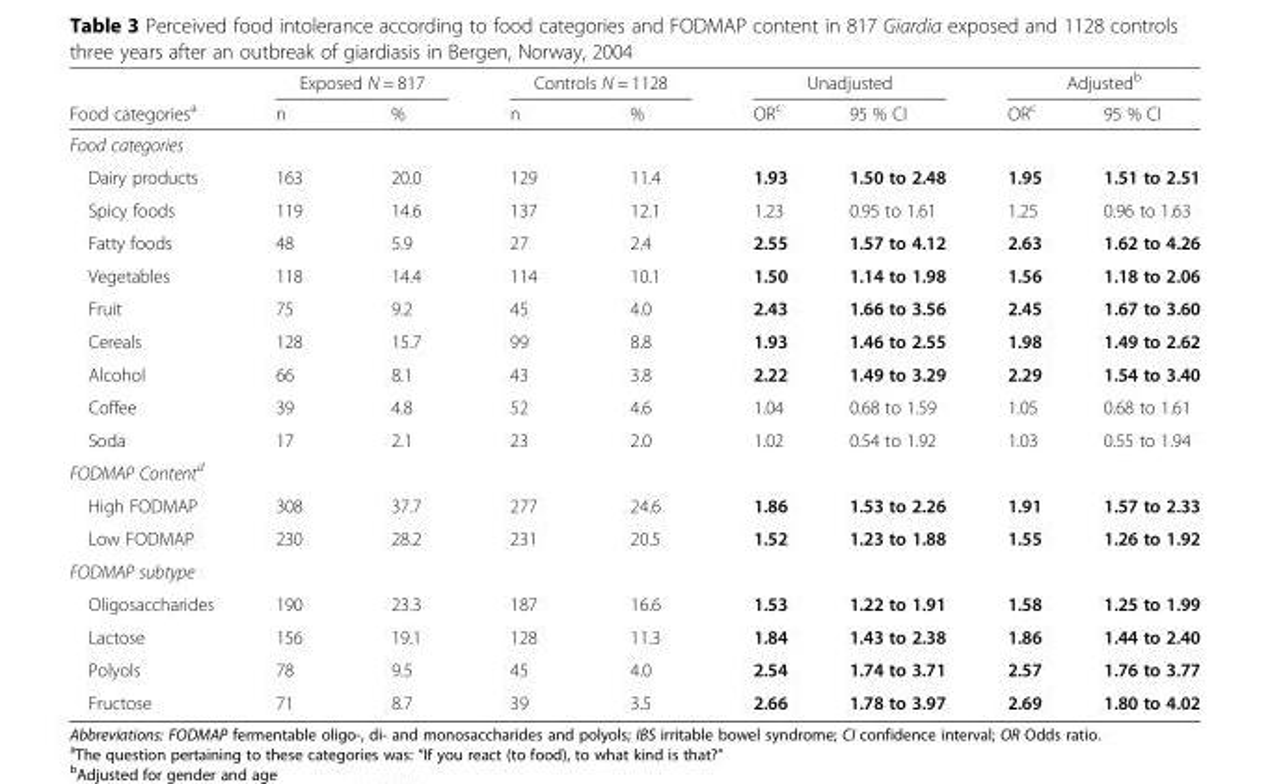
<table><thead><tr><td rowspan="2">Food categories<sup>a</sup></td><td colspan="2">Exposed N = 817</td><td colspan="2">Controls N = 1128</td><td colspan="2">Unadjusted</td><td colspan="2">Adjusted<sup>b</sup></td></tr><tr><td>n</td><td>%</td><td>n</td><td>%</td><td>OR<sup>c</sup></td><td>95 % CI</td><td>OR<sup>c</sup></td><td>95 % CI</td></tr></thead><tbody><tr><td colspan="9">Food categories</td></tr><tr><td>Dairy products</td><td>163</td><td>20.0</td><td>129</td><td>11.4</td><td>1.93</td><td>1.50 to 2.48</td><td>1.95</td><td>1.51 to 2.51</td></tr><tr><td>Spicy foods</td><td>119</td><td>14.6</td><td>137</td><td>12.1</td><td>1.23</td><td>0.95 to 1.61</td><td>1.25</td><td>0.96 to 1.63</td></tr><tr><td>Fatty foods</td><td>48</td><td>5.9</td><td>27</td><td>2.4</td><td>2.55</td><td>1.57 to 4.12</td><td>2.63</td><td>1.62 to 4.26</td></tr><tr><td>Vegetables</td><td>118</td><td>14.4</td><td>114</td><td>10.1</td><td>1.50</td><td>1.14 to 1.98</td><td>1.56</td><td>1.18 to 2.06</td></tr><tr><td>Fruit</td><td>75</td><td>9.2</td><td>45</td><td>4.0</td><td>2.43</td><td>1.66 to 3.56</td><td>2.45</td><td>1.67 to 3.60</td></tr><tr><td>Cereals</td><td>128</td><td>15.7</td><td>99</td><td>8.8</td><td>1.93</td><td>1.46 to 2.55</td><td>1.98</td><td>1.49 to 2.62</td></tr><tr><td>Alcohol</td><td>66</td><td>8.1</td><td>43</td><td>3.8</td><td>2.22</td><td>1.49 to 3.29</td><td>2.29</td><td>1.54 to 3.40</td></tr><tr><td>Coffee</td><td>39</td><td>4.8</td><td>52</td><td>4.6</td><td>1.04</td><td>0.68 to 1.59</td><td>1.05</td><td>0.68 to 1.61</td></tr><tr><td>Soda</td><td>17</td><td>2.1</td><td>23</td><td>2.0</td><td>1.02</td><td>0.54 to 1.92</td><td>1.03</td><td>0.55 to 1.94</td></tr><tr><td colspan="9">FODMAP Content<sup>d</sup></td></tr><tr><td>High FODMAP</td><td>308</td><td>37.7</td><td>277</td><td>24.6</td><td>1.86</td><td>1.53 to 2.26</td><td>1.91</td><td>1.57 to 2.33</td></tr><tr><td>Low FODMAP</td><td>230</td><td>28.2</td><td>231</td><td>20.5</td><td>1.52</td><td>1.23 to 1.88</td><td>1.55</td><td>1.26 to 1.92</td></tr><tr><td colspan="9">FODMAP subtype</td></tr><tr><td>Oligosaccharides</td><td>190</td><td>23.3</td><td>187</td><td>16.6</td><td>1.53</td><td>1.22 to 1.91</td><td>1.58</td><td>1.25 to 1.99</td></tr><tr><td>Lactose</td><td>156</td><td>19.1</td><td>128</td><td>11.3</td><td>1.84</td><td>1.43 to 2.38</td><td>1.86</td><td>1.44 to 2.40</td></tr><tr><td>Polyols</td><td>78</td><td>9.5</td><td>45</td><td>4.0</td><td>2.54</td><td>1.74 to 3.71</td><td>2.57</td><td>1.76 to 3.77</td></tr><tr><td>Fructose</td><td>71</td><td>8.7</td><td>39</td><td>3.5</td><td>2.66</td><td>1.78 to 3.97</td><td>2.69</td><td>1.80 to 4.02</td></tr></tbody></table>